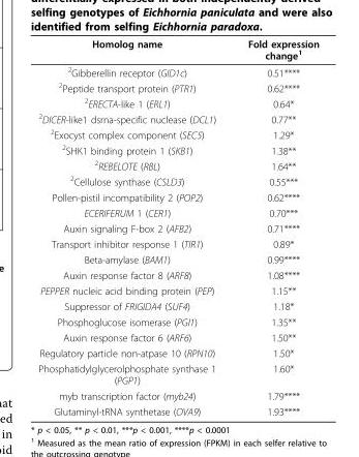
<table><thead><tr><td>Homolog name</td><td>Fold expression change<sup>1</sup></td></tr></thead><tbody><tr><td><sup>2</sup>Gibberellin receptor (GID1c)</td><td>0.51****</td></tr><tr><td><sup>2</sup>Peptide transport protein (PTR1)</td><td>0.62****</td></tr><tr><td><sup>2</sup>ERECTA-like 1 (ERL1)</td><td>0.64*</td></tr><tr><td><sup>2</sup>DICER-like1 dsrna-specific nuclease (DCL1)</td><td>0.77**</td></tr><tr><td><sup>2</sup>Exocyst complex component (SEC5)</td><td>1.29*</td></tr><tr><td><sup>2</sup>SHK1 binding protein 1 (SKB1)</td><td>1.38**</td></tr><tr><td><sup>2</sup>REBELOTE (RBL)</td><td>1.64**</td></tr><tr><td><sup>2</sup>Cellulose synthase (CSLD3)</td><td>0.55***</td></tr><tr><td>Pollen-pistil incompatibility 2 (POP2)</td><td>0.62****</td></tr><tr><td>ECERIFERUM 1 (CER1)</td><td>0.70***</td></tr><tr><td>Auxin signaling F-box 2 (AFB2)</td><td>0.71****</td></tr><tr><td>Transport inhibitor response 1 (TIR1)</td><td>0.89*</td></tr><tr><td>Beta-amylase (BAM1)</td><td>0.99****</td></tr><tr><td>Auxin response factor 8 (ARF8)</td><td>1.08****</td></tr><tr><td>PEPPER nucleic acid binding protein (PEP)</td><td>1.15**</td></tr><tr><td>Suppressor of FRIGIDA4 (SUF4)</td><td>1.18*</td></tr><tr><td>Phosphoglucose isomerase (PGI1)</td><td>1.35**</td></tr><tr><td>Auxin response factor 6 (ARF6)</td><td>1.50**</td></tr><tr><td>Regulatory particle non-atpase 10 (RPN10)</td><td>1.50*</td></tr><tr><td>Phosphatidylglycerolphosphate synthase 1 (PGP1)</td><td>1.60*</td></tr><tr><td>myb transcription factor (myb24)</td><td>1.79****</td></tr><tr><td>Glutaminyl-tRNA synthetase (OVA9)</td><td>1.93****</td></tr></tbody></table>